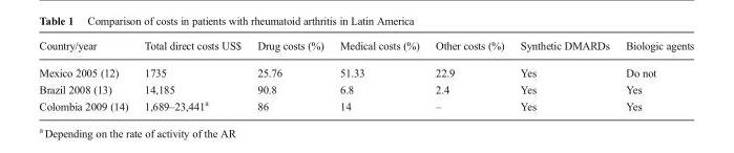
<table><thead><tr><td>Country/year</td><td>Total direct costs US$</td><td>Drug costs (%)</td><td>Medical costs (%)</td><td>Other costs (%)</td><td>Synthetic DMARDs</td><td>Biologic agents</td></tr></thead><tbody><tr><td>Mexico 2005 (12)</td><td>1735</td><td>25.76</td><td>51.33</td><td>22.9</td><td>Yes</td><td>Do not</td></tr><tr><td>Brazil 2008 (13)</td><td>14,185</td><td>90.8</td><td>6.8</td><td>2.4</td><td>Yes</td><td>Yes</td></tr><tr><td>Colombia 2009 (14)</td><td>1,689–23,441<sup>a</sup></td><td>86</td><td>14</td><td>–</td><td>Yes</td><td>Yes</td></tr></tbody></table>